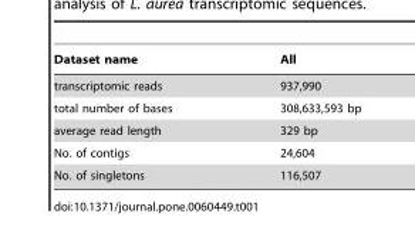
<table><thead><tr><td>Dataset name</td><td>All</td></tr></thead><tbody><tr><td>transcriptomic reads</td><td>937,990</td></tr><tr><td>total number of bases</td><td>308,633,593 bp</td></tr><tr><td>average read length</td><td>329 bp</td></tr><tr><td>No. of contigs</td><td>24,604</td></tr><tr><td>No. of singletons</td><td>116,507</td></tr></tbody></table>